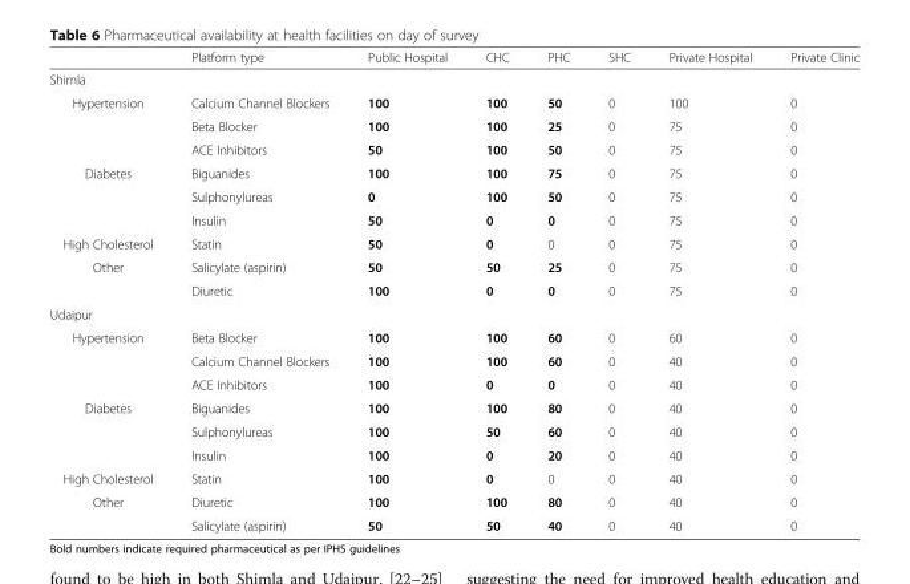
<table><thead><tr><td></td><td>Platform type</td><td>Public Hospital</td><td>CHC</td><td>PHC</td><td>SHC</td><td>Private Hospital</td><td>Private Clinic</td></tr></thead><tbody><tr><td colspan="8">Shimla</td></tr><tr><td rowspan="3">Hypertension</td><td>Calcium Channel Blockers</td><td>100</td><td>100</td><td>50</td><td>0</td><td>100</td><td>0</td></tr><tr><td>Beta Blocker</td><td>100</td><td>100</td><td>25</td><td>0</td><td>75</td><td>0</td></tr><tr><td>ACE Inhibitors</td><td>50</td><td>100</td><td>50</td><td>0</td><td>75</td><td>0</td></tr><tr><td rowspan="3">Diabetes</td><td>Biguanides</td><td>100</td><td>100</td><td>75</td><td>0</td><td>75</td><td>0</td></tr><tr><td>Sulphonylureas</td><td>0</td><td>100</td><td>50</td><td>0</td><td>75</td><td>0</td></tr><tr><td>Insulin</td><td>50</td><td>0</td><td>0</td><td>0</td><td>75</td><td>0</td></tr><tr><td>High Cholesterol</td><td>Statin</td><td>50</td><td>0</td><td>0</td><td>0</td><td>75</td><td>0</td></tr><tr><td rowspan="2">Other</td><td>Salicylate (aspirin)</td><td>50</td><td>50</td><td>25</td><td>0</td><td>75</td><td>0</td></tr><tr><td>Diuretic</td><td>100</td><td>0</td><td>0</td><td>0</td><td>75</td><td>0</td></tr><tr><td colspan="8">Udaipur</td></tr><tr><td rowspan="3">Hypertension</td><td>Beta Blocker</td><td>100</td><td>100</td><td>60</td><td>0</td><td>60</td><td>0</td></tr><tr><td>Calcium Channel Blockers</td><td>100</td><td>100</td><td>60</td><td>0</td><td>40</td><td>0</td></tr><tr><td>ACE Inhibitors</td><td>100</td><td>0</td><td>0</td><td>0</td><td>40</td><td>0</td></tr><tr><td rowspan="3">Diabetes</td><td>Biguanides</td><td>100</td><td>100</td><td>80</td><td>0</td><td>40</td><td>0</td></tr><tr><td>Sulphonylureas</td><td>100</td><td>50</td><td>60</td><td>0</td><td>40</td><td>0</td></tr><tr><td>Insulin</td><td>100</td><td>0</td><td>20</td><td>0</td><td>40</td><td>0</td></tr><tr><td>High Cholesterol</td><td>Statin</td><td>100</td><td>0</td><td>0</td><td>0</td><td>40</td><td>0</td></tr><tr><td rowspan="2">Other</td><td>Diuretic</td><td>100</td><td>100</td><td>80</td><td>0</td><td>40</td><td>0</td></tr><tr><td>Salicylate (aspirin)</td><td>50</td><td>50</td><td>40</td><td>0</td><td>40</td><td>0</td></tr></tbody></table>